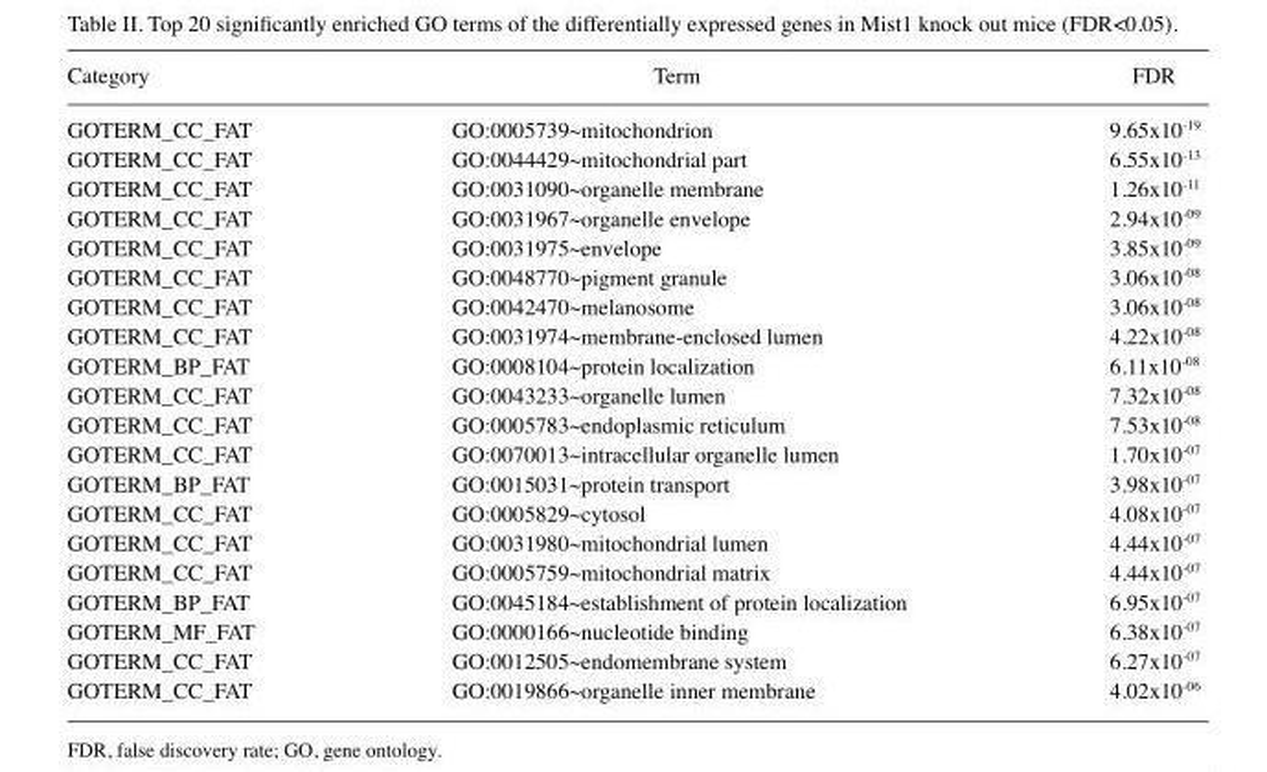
<table><thead><tr><td>Category</td><td>Term</td><td>FDR</td></tr></thead><tbody><tr><td>GOTERM_CC_FAT</td><td>GO:0005739~mitochondrion</td><td>9.65x10‑19</td></tr><tr><td>GOTERM_CC_FAT</td><td>GO:0044429~mitochondrial part</td><td>6.55x10‑13</td></tr><tr><td>GOTERM_CC_FAT</td><td>GO:0031090~organelle membrane</td><td>1.26x10-11</td></tr><tr><td>GOTERM_CC_FAT</td><td>GO:0031967~organelle envelope</td><td>2.94x10‑09</td></tr><tr><td>GOTERM_CC_FAT</td><td>GO:0031975~envelope</td><td>3.85x10‑09</td></tr><tr><td>GOTERM_CC_FAT</td><td>GO:0048770~pigment granule</td><td>3.06x10-08</td></tr><tr><td>GOTERM_CC_FAT</td><td>GO:0042470~melanosome</td><td>3.06x10-08</td></tr><tr><td>GOTERM_CC_FAT</td><td>GO:0031974~membrane‑enclosed lumen</td><td>4.22x10-08</td></tr><tr><td>GOTERM_BP_FAT</td><td>GO:0008104~protein localization</td><td>6.11x10-08</td></tr><tr><td>GOTERM_CC_FAT</td><td>GO:0043233~organelle lumen</td><td>7.32x10-08</td></tr><tr><td>GOTERM_CC_FAT</td><td>GO:0005783~endoplasmic reticulum</td><td>7.53x10-08</td></tr><tr><td>GOTERM_CC_FAT</td><td>GO:0070013~intracellular organelle lumen</td><td>1.70x10-07</td></tr><tr><td>GOTERM_BP_FAT</td><td>GO:0015031~protein transport</td><td>3.98x10-07</td></tr><tr><td>GOTERM_CC_FAT</td><td>GO:0005829~cytosol</td><td>4.08x10-07</td></tr><tr><td>GOTERM_CC_FAT</td><td>GO:0031980~mitochondrial lumen</td><td>4.44x10-07</td></tr><tr><td>GOTERM_CC_FAT</td><td>GO:0005759~mitochondrial matrix</td><td>4.44x10-07</td></tr><tr><td>GOTERM_BP_FAT</td><td>GO:0045184~establishment of protein localization</td><td>6.95x10-07</td></tr><tr><td>GOTERM_MF_FAT</td><td>GO:0000166~nucleotide binding</td><td>6.38x10-07</td></tr><tr><td>GOTERM_CC_FAT</td><td>GO:0012505~endomembrane system</td><td>6.27x10-07</td></tr><tr><td>GOTERM_CC_FAT</td><td>GO:0019866~organelle inner membrane</td><td>4.02x10-06</td></tr></tbody></table>